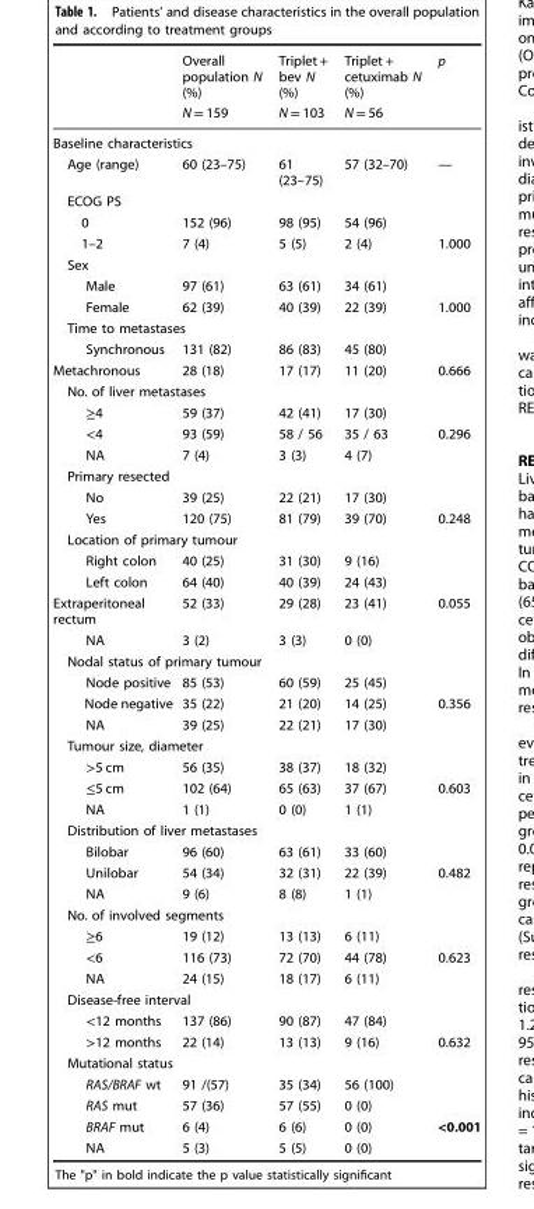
<table><thead><tr><td rowspan="2"></td><td rowspan="2">Overall population N (%) N = 159</td><td rowspan="2">Triplet + bev N (%) N = 103</td><td rowspan="2">Triplet + cetuximab N (%) N = 56</td><td rowspan="2">p</td></tr><tr></tr></thead><tbody><tr><td colspan="5">Baseline characteristics</td></tr><tr><td>Age (range)</td><td>60 (23–75)</td><td>61 (23–75)</td><td>57 (32–70)</td><td>—</td></tr><tr><td colspan="5">ECOG PS</td></tr><tr><td>0</td><td>152 (96)</td><td>98 (95)</td><td>54 (96)</td><td></td></tr><tr><td>1–2</td><td>7 (4)</td><td>5 (5)</td><td>2 (4)</td><td>1.000</td></tr><tr><td colspan="5">Sex</td></tr><tr><td>Male</td><td>97 (61)</td><td>63 (61)</td><td>34 (61)</td><td></td></tr><tr><td>Female</td><td>62 (39)</td><td>40 (39)</td><td>22 (39)</td><td>1.000</td></tr><tr><td colspan="5">Time to metastases</td></tr><tr><td>Synchronous</td><td>131 (82)</td><td>86 (83)</td><td>45 (80)</td><td></td></tr><tr><td>Metachronous</td><td>28 (18)</td><td>17 (17)</td><td>11 (20)</td><td>0.666</td></tr><tr><td colspan="5">No. of liver metastases</td></tr><tr><td>≥4</td><td>59 (37)</td><td>42 (41)</td><td>17 (30)</td><td></td></tr><tr><td>&lt;4</td><td>93 (59)</td><td>58 / 56</td><td>35 / 63</td><td>0.296</td></tr><tr><td>NA</td><td>7 (4)</td><td>3 (3)</td><td>4 (7)</td><td></td></tr><tr><td colspan="5">Primary resected</td></tr><tr><td>No</td><td>39 (25)</td><td>22 (21)</td><td>17 (30)</td><td></td></tr><tr><td>Yes</td><td>120 (75)</td><td>81 (79)</td><td>39 (70)</td><td>0.248</td></tr><tr><td colspan="5">Location of primary tumour</td></tr><tr><td>Right colon</td><td>40 (25)</td><td>31 (30)</td><td>9 (16)</td><td></td></tr><tr><td>Left colon</td><td>64 (40)</td><td>40 (39)</td><td>24 (43)</td><td></td></tr><tr><td>Extraperitoneal rectum</td><td>52 (33)</td><td>29 (28)</td><td>23 (41)</td><td>0.055</td></tr><tr><td>NA</td><td>3 (2)</td><td>3 (3)</td><td>0 (0)</td><td></td></tr><tr><td colspan="5">Nodal status of primary tumour</td></tr><tr><td>Node positive</td><td>85 (53)</td><td>60 (59)</td><td>25 (45)</td><td></td></tr><tr><td>Node negative</td><td>35 (22)</td><td>21 (20)</td><td>14 (25)</td><td>0.356</td></tr><tr><td>NA</td><td>39 (25)</td><td>22 (21)</td><td>17 (30)</td><td></td></tr><tr><td colspan="5">Tumour size, diameter</td></tr><tr><td>&gt;5 cm</td><td>56 (35)</td><td>38 (37)</td><td>18 (32)</td><td></td></tr><tr><td>≤5 cm</td><td>102 (64)</td><td>65 (63)</td><td>37 (67)</td><td>0.603</td></tr><tr><td>NA</td><td>1 (1)</td><td>0 (0)</td><td>1 (1)</td><td></td></tr><tr><td colspan="5">Distribution of liver metastases</td></tr><tr><td>Bilobar</td><td>96 (60)</td><td>63 (61)</td><td>33 (60)</td><td></td></tr><tr><td>Unilobar</td><td>54 (34)</td><td>32 (31)</td><td>22 (39)</td><td>0.482</td></tr><tr><td>NA</td><td>9 (6)</td><td>8 (8)</td><td>1 (1)</td><td></td></tr><tr><td colspan="5">No. of involved segments</td></tr><tr><td>≥6</td><td>19 (12)</td><td>13 (13)</td><td>6 (11)</td><td></td></tr><tr><td>&lt;6</td><td>116 (73)</td><td>72 (70)</td><td>44 (78)</td><td>0.623</td></tr><tr><td>NA</td><td>24 (15)</td><td>18 (17)</td><td>6 (11)</td><td></td></tr><tr><td colspan="5">Disease-free interval</td></tr><tr><td>&lt;12 months</td><td>137 (86)</td><td>90 (87)</td><td>47 (84)</td><td></td></tr><tr><td>&gt;12 months</td><td>22 (14)</td><td>13 (13)</td><td>9 (16)</td><td>0.632</td></tr><tr><td colspan="5">Mutational status</td></tr><tr><td>RAS/BRAF wt</td><td>91 /(57)</td><td>35 (34)</td><td>56 (100)</td><td></td></tr><tr><td>RAS mut</td><td>57 (36)</td><td>57 (55)</td><td>0 (0)</td><td></td></tr><tr><td>BRAF mut</td><td>6 (4)</td><td>6 (6)</td><td>0 (0)</td><td>&lt;0.001</td></tr><tr><td>NA</td><td>5 (3)</td><td>5 (5)</td><td>0 (0)</td><td></td></tr></tbody></table>